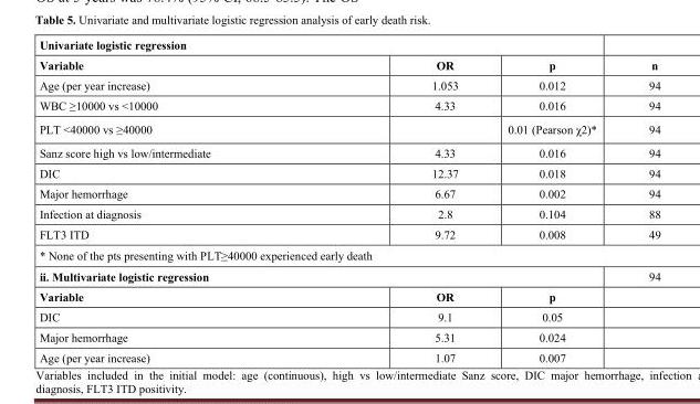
<table><thead><tr><td colspan="3">Univariate logistic regression</td><td rowspan="2">n</td></tr><tr><td>Variable</td><td>OR</td><td>p</td></tr></thead><tbody><tr><td>Age (per year increase)</td><td>1.053</td><td>0.012</td><td>94</td></tr><tr><td>WBC ≥10000 vs &lt;10000</td><td>4.33</td><td>0.016</td><td>94</td></tr><tr><td>PLT &lt;40000 vs ≥40000</td><td></td><td>0.01 (Pearson χ2)*</td><td>94</td></tr><tr><td>Sanz score high vs low/intermediate</td><td>4.33</td><td>0.016</td><td>94</td></tr><tr><td>DIC</td><td>12.37</td><td>0.018</td><td>94</td></tr><tr><td>Major hemorrhage</td><td>6.67</td><td>0.002</td><td>94</td></tr><tr><td>Infection at diagnosis</td><td>2.8</td><td>0.104</td><td>88</td></tr><tr><td>FLT3 ITD</td><td>9.72</td><td>0.008</td><td>49</td></tr><tr><td colspan="4">* None of the pts presenting with PLT≥40000 experienced early death</td></tr><tr><td colspan="3">ii. Multivariate logistic regression</td><td>94</td></tr><tr><td>Variable</td><td>OR</td><td>p</td><td></td></tr><tr><td>DIC</td><td>9.1</td><td>0.05</td><td></td></tr><tr><td>Major hemorrhage</td><td>5.31</td><td>0.024</td><td></td></tr><tr><td>Age (per year increase)</td><td>1.07</td><td>0.007</td><td></td></tr></tbody></table>